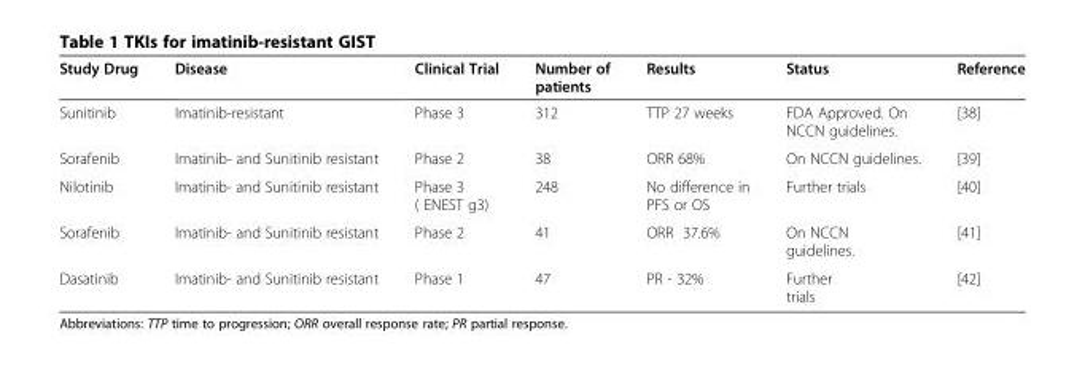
<table><thead><tr><td>Study Drug</td><td>Disease</td><td>Clinical Trial</td><td>Number of patients</td><td>Results</td><td>Status</td><td>Reference</td></tr></thead><tbody><tr><td>Sunitinib</td><td>Imatinib-resistant</td><td>Phase 3</td><td>312</td><td>TTP 27 weeks</td><td>FDA Approved. On NCCN guidelines.</td><td>[38]</td></tr><tr><td>Sorafenib</td><td>Imatinib- and Sunitinib resistant</td><td>Phase 2</td><td>38</td><td>ORR 68%</td><td>On NCCN guidelines.</td><td>[39]</td></tr><tr><td>Nilotinib</td><td>Imatinib- and Sunitinib resistant</td><td>Phase 3 ( ENEST g3)</td><td>248</td><td>No difference in PFS or OS</td><td>Further trials</td><td>[40]</td></tr><tr><td>Sorafenib</td><td>Imatinib- and Sunitinib resistant</td><td>Phase 2</td><td>41</td><td>ORR 37.6%</td><td>On NCCN guidelines.</td><td>[41]</td></tr><tr><td>Dasatinib</td><td>Imatinib- and Sunitinib resistant</td><td>Phase 1</td><td>47</td><td>PR - 32%</td><td>Further trials</td><td>[42]</td></tr></tbody></table>